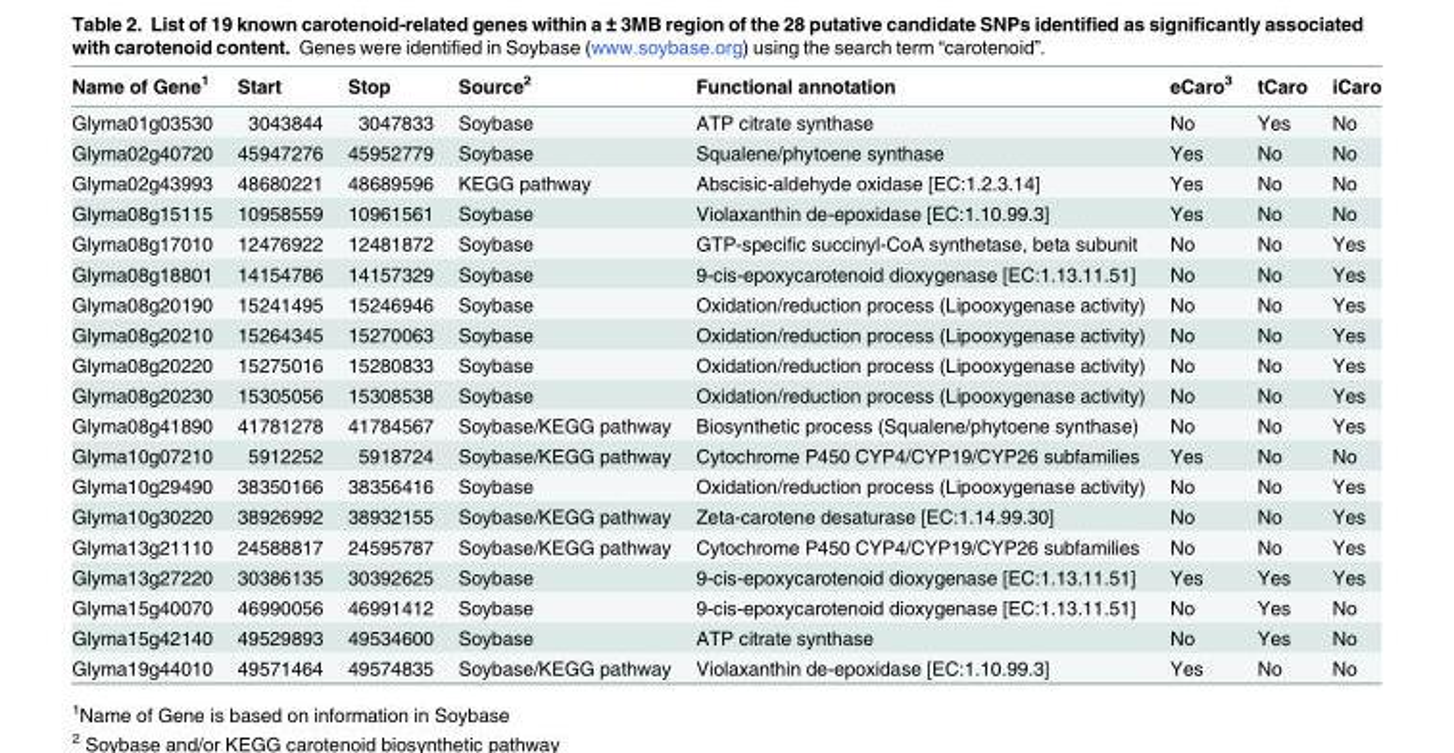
<table><thead><tr><td>Name of Gene<sup>1</sup></td><td>Start</td><td>Stop</td><td>Source<sup>2</sup></td><td>Functional annotation</td><td>eCaro<sup>3</sup></td><td>tCaro</td><td>iCaro</td></tr></thead><tbody><tr><td>Glyma01g03530</td><td>3043844</td><td>3047833</td><td>Soybase</td><td>ATP citrate synthase</td><td>No</td><td>Yes</td><td>No</td></tr><tr><td>Glyma02g40720</td><td>45947276</td><td>45952779</td><td>Soybase</td><td>Squalene/phytoene synthase</td><td>Yes</td><td>No</td><td>No</td></tr><tr><td>Glyma02g43993</td><td>48680221</td><td>48689596</td><td>KEGG pathway</td><td>Abscisic-aldehyde oxidase [EC:1.2.3.14]</td><td>Yes</td><td>No</td><td>No</td></tr><tr><td>Glyma08g15115</td><td>10958559</td><td>10961561</td><td>Soybase</td><td>Violaxanthin de-epoxidase [EC:1.10.99.3]</td><td>Yes</td><td>No</td><td>No</td></tr><tr><td>Glyma08g17010</td><td>12476922</td><td>12481872</td><td>Soybase</td><td>GTP-specific succinyl-CoA synthetase, beta subunit</td><td>No</td><td>No</td><td>Yes</td></tr><tr><td>Glyma08g18801</td><td>14154786</td><td>14157329</td><td>Soybase</td><td>9-cis-epoxycarotenoid dioxygenase [EC:1.13.11.51]</td><td>No</td><td>No</td><td>Yes</td></tr><tr><td>Glyma08g20190</td><td>15241495</td><td>15246946</td><td>Soybase</td><td>Oxidation/reduction process (Lipooxygenase activity)</td><td>No</td><td>No</td><td>Yes</td></tr><tr><td>Glyma08g20210</td><td>15264345</td><td>15270063</td><td>Soybase</td><td>Oxidation/reduction process (Lipooxygenase activity)</td><td>No</td><td>No</td><td>Yes</td></tr><tr><td>Glyma08g20220</td><td>15275016</td><td>15280833</td><td>Soybase</td><td>Oxidation/reduction process (Lipooxygenase activity)</td><td>No</td><td>No</td><td>Yes</td></tr><tr><td>Glyma08g20230</td><td>15305056</td><td>15308538</td><td>Soybase</td><td>Oxidation/reduction process (Lipooxygenase activity)</td><td>No</td><td>No</td><td>Yes</td></tr><tr><td>Glyma08g41890</td><td>41781278</td><td>41784567</td><td>Soybase/KEGG pathway</td><td>Biosynthetic process (Squalene/phytoene synthase)</td><td>No</td><td>No</td><td>Yes</td></tr><tr><td>Glyma10g07210</td><td>5912252</td><td>5918724</td><td>Soybase/KEGG pathway</td><td>Cytochrome P450 CYP4/CYP19/CYP26 subfamilies</td><td>Yes</td><td>No</td><td>No</td></tr><tr><td>Glyma10g29490</td><td>38350166</td><td>38356416</td><td>Soybase</td><td>Oxidation/reduction process (Lipooxygenase activity)</td><td>No</td><td>No</td><td>Yes</td></tr><tr><td>Glyma10g30220</td><td>38926992</td><td>38932155</td><td>Soybase/KEGG pathway</td><td>Zeta-carotene desaturase [EC:1.14.99.30]</td><td>No</td><td>No</td><td>Yes</td></tr><tr><td>Glyma13g21110</td><td>24588817</td><td>24595787</td><td>Soybase/KEGG pathway</td><td>Cytochrome P450 CYP4/CYP19/CYP26 subfamilies</td><td>No</td><td>No</td><td>Yes</td></tr><tr><td>Glyma13g27220</td><td>30386135</td><td>30392625</td><td>Soybase</td><td>9-cis-epoxycarotenoid dioxygenase [EC:1.13.11.51]</td><td>Yes</td><td>Yes</td><td>Yes</td></tr><tr><td>Glyma15g40070</td><td>46990056</td><td>46991412</td><td>Soybase</td><td>9-cis-epoxycarotenoid dioxygenase [EC:1.13.11.51]</td><td>No</td><td>Yes</td><td>No</td></tr><tr><td>Glyma15g42140</td><td>49529893</td><td>49534600</td><td>Soybase</td><td>ATP citrate synthase</td><td>No</td><td>Yes</td><td>No</td></tr><tr><td>Glyma19g44010</td><td>49571464</td><td>49574835</td><td>Soybase/KEGG pathway</td><td>Violaxanthin de-epoxidase [EC:1.10.99.3]</td><td>Yes</td><td>No</td><td>No</td></tr></tbody></table>